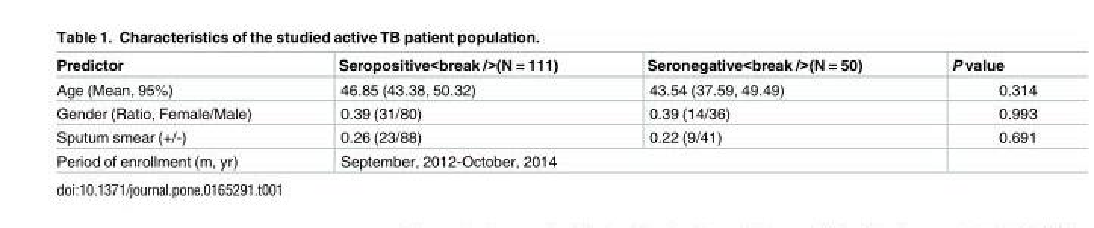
<table><thead><tr><td>Predictor</td><td>Seropositive&lt;break /&gt;(N = 111)</td><td>Seronegative&lt;break /&gt;(N = 50)</td><td>P value</td></tr></thead><tbody><tr><td>Age (Mean, 95%)</td><td>46.85 (43.38, 50.32)</td><td>43.54 (37.59, 49.49)</td><td>0.314</td></tr><tr><td>Gender (Ratio, Female/Male)</td><td>0.39 (31/80)</td><td>0.39 (14/36)</td><td>0.993</td></tr><tr><td>Sputum smear (+/-)</td><td>0.26 (23/88)</td><td>0.22 (9/41)</td><td>0.691</td></tr><tr><td>Period of enrollment (m, yr)</td><td colspan="2">September, 2012-October, 2014</td><td></td></tr></tbody></table>